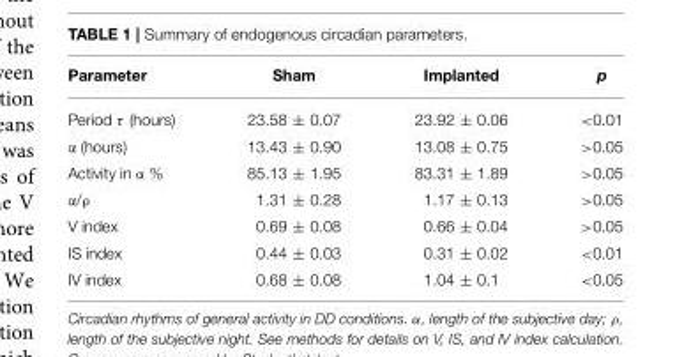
<table><thead><tr><td>Parameter</td><td>Sham</td><td>Implanted</td><td>p</td></tr></thead><tbody><tr><td>Period τ (hours)</td><td>23.58 ± 0.07</td><td>23.92 ± 0.06</td><td>&lt;0.01</td></tr><tr><td>α (hours)</td><td>13.43 ± 0.90</td><td>13.08 ± 0.75</td><td>&gt;0.05</td></tr><tr><td>Activity in α %</td><td>85.13 ± 1.95</td><td>83.31 ± 1.89</td><td>&gt;0.05</td></tr><tr><td>α/ρ</td><td>1.31 ± 0.28</td><td>1.17 ± 0.13</td><td>&gt;0.05</td></tr><tr><td>V index</td><td>0.69 ± 0.08</td><td>0.66 ± 0.04</td><td>&gt;0.05</td></tr><tr><td>IS index</td><td>0.44 ± 0.03</td><td>0.31 ± 0.02</td><td>&lt;0.01</td></tr><tr><td>IV index</td><td>0.68 ± 0.08</td><td>1.04 ± 0.1</td><td>&lt;0.05</td></tr></tbody></table>